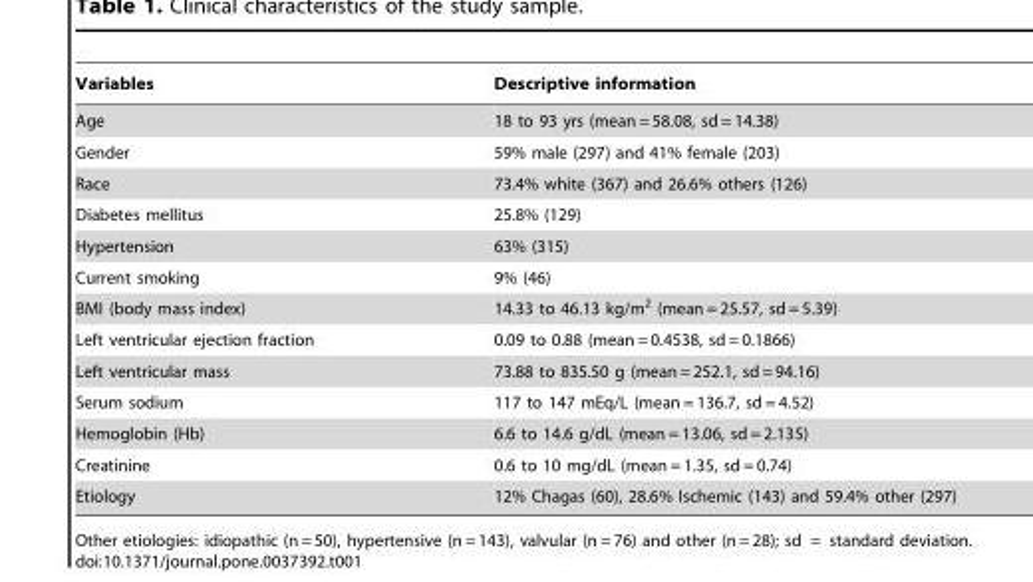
<table><thead><tr><td>Variables</td><td>Descriptive information</td></tr></thead><tbody><tr><td>Age</td><td>18 to 93 yrs (mean = 58.08, sd = 14.38)</td></tr><tr><td>Gender</td><td>59% male (297) and 41% female (203)</td></tr><tr><td>Race</td><td>73.4% white (367) and 26.6% others (126)</td></tr><tr><td>Diabetes mellitus</td><td>25.8% (129)</td></tr><tr><td>Hypertension</td><td>63% (315)</td></tr><tr><td>Current smoking</td><td>9% (46)</td></tr><tr><td>BMI (body mass index)</td><td>14.33 to 46.13 kg/m<sup>2</sup> (mean = 25.57, sd = 5.39)</td></tr><tr><td>Left ventricular ejection fraction</td><td>0.09 to 0.88 (mean = 0.4538, sd = 0.1866)</td></tr><tr><td>Left ventricular mass</td><td>73.88 to 835.50 g (mean = 252.1, sd = 94.16)</td></tr><tr><td>Serum sodium</td><td>117 to 147 mEq/L (mean = 136.7, sd = 4.52)</td></tr><tr><td>Hemoglobin (Hb)</td><td>6.6 to 14.6 g/dL (mean = 13.06, sd = 2.135)</td></tr><tr><td>Creatinine</td><td>0.6 to 10 mg/dL (mean = 1.35, sd = 0.74)</td></tr><tr><td>Etiology</td><td>12% Chagas (60), 28.6% Ischemic (143) and 59.4% other (297)</td></tr></tbody></table>